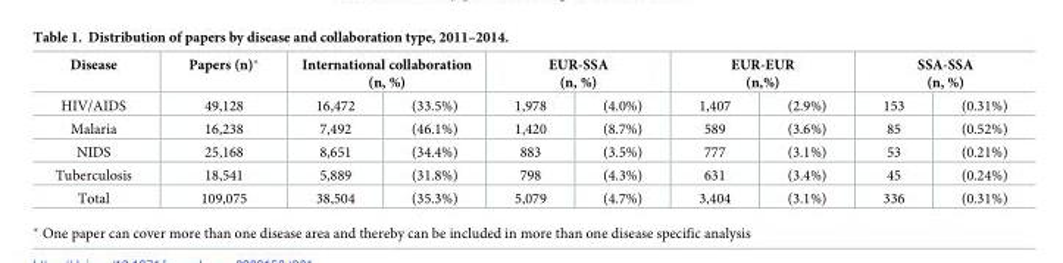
<table><thead><tr><td rowspan="2">Disease HIV/AIDS</td><td rowspan="2">Papers (n)* 49,128</td><td colspan="2">International collaboration (n, %)</td><td colspan="2">EUR-SSA (n, %)</td><td colspan="2">EUR-EUR (n,%)</td><td colspan="2">SSA-SSA (n, %)</td></tr><tr><td>16,472</td><td>(33.5%)</td><td>1,978</td><td>(4.0%)</td><td>1,407</td><td>(2.9%)</td><td>153</td><td>(0.31%)</td></tr></thead><tbody><tr><td>Malaria</td><td>16,238</td><td>7,492</td><td>(46.1%)</td><td>1,420</td><td>(8.7%)</td><td>589</td><td>(3.6%)</td><td>85</td><td>(0.52%)</td></tr><tr><td>NIDS</td><td>25,168</td><td>8,651</td><td>(34.4%)</td><td>883</td><td>(3.5%)</td><td>777</td><td>(3.1%)</td><td>53</td><td>(0.21%)</td></tr><tr><td>Tuberculosis</td><td>18,541</td><td>5,889</td><td>(31.8%)</td><td>798</td><td>(4.3%)</td><td>631</td><td>(3.4%)</td><td>45</td><td>(0.24%)</td></tr><tr><td>Total</td><td>109,075</td><td>38,504</td><td>(35.3%)</td><td>5,079</td><td>(4.7%)</td><td>3,404</td><td>(3.1%)</td><td>336</td><td>(0.31%)</td></tr></tbody></table>